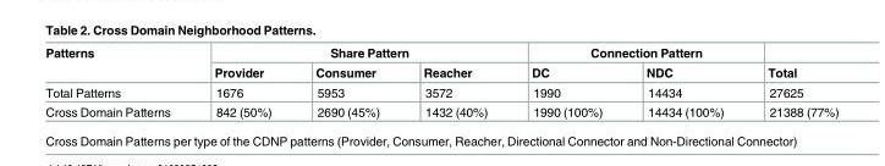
<table><thead><tr><td rowspan="2">Patterns</td><td colspan="3">Share Pattern</td><td colspan="2">Connection Pattern</td><td rowspan="2">Total</td></tr><tr><td>Provider</td><td>Consumer</td><td>Reacher</td><td>DC</td><td>NDC</td></tr></thead><tbody><tr><td>Total Patterns</td><td>1676</td><td>5953</td><td>3572</td><td>1990</td><td>14434</td><td>27625</td></tr><tr><td>Cross Domain Patterns</td><td>842 (50%)</td><td>2690 (45%)</td><td>1432 (40%)</td><td>1990 (100%)</td><td>14434 (100%)</td><td>21388 (77%)</td></tr></tbody></table>